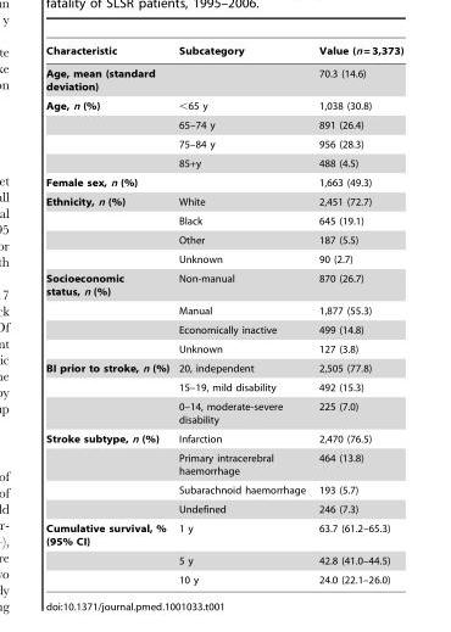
<table><thead><tr><td>Characteristic</td><td>Subcategory</td><td>Value (n = 3,373)</td></tr></thead><tbody><tr><td>Age, mean (standard deviation)</td><td></td><td>70.3 (14.6)</td></tr><tr><td rowspan="4">Age, n (%)</td><td>&lt;65 y</td><td>1,038 (30.8)</td></tr><tr><td>65–74 y</td><td>891 (26.4)</td></tr><tr><td>75–84 y</td><td>956 (28.3)</td></tr><tr><td>85+y</td><td>488 (4.5)</td></tr><tr><td>Female sex, n (%)</td><td></td><td>1,663 (49.3)</td></tr><tr><td rowspan="4">Ethnicity, n (%)</td><td>White</td><td>2,451 (72.7)</td></tr><tr><td>Black</td><td>645 (19.1)</td></tr><tr><td>Other</td><td>187 (5.5)</td></tr><tr><td>Unknown</td><td>90 (2.7)</td></tr><tr><td rowspan="4">Socioeconomic status, n (%)</td><td>Non-manual</td><td>870 (26.7)</td></tr><tr><td>Manual</td><td>1,877 (55.3)</td></tr><tr><td>Economically inactive</td><td>499 (14.8)</td></tr><tr><td>Unknown</td><td>127 (3.8)</td></tr><tr><td rowspan="3">BI prior to stroke, n (%)</td><td>20, independent</td><td>2,505 (77.8)</td></tr><tr><td>15–19, mild disability</td><td>492 (15.3)</td></tr><tr><td>0–14, moderate-severe disability</td><td>225 (7.0)</td></tr><tr><td rowspan="4">Stroke subtype, n (%)</td><td>Infarction</td><td>2,470 (76.5)</td></tr><tr><td>Primary intracerebral haemorrhage</td><td>464 (13.8)</td></tr><tr><td>Subarachnoid haemorrhage</td><td>193 (5.7)</td></tr><tr><td>Undefined</td><td>246 (7.3)</td></tr><tr><td rowspan="3">Cumulative survival, % (95% CI)</td><td>1 y</td><td>63.7 (61.2–65.3)</td></tr><tr><td>5 y</td><td>42.8 (41.0–44.5)</td></tr><tr><td>10 y</td><td>24.0 (22.1–26.0)</td></tr></tbody></table>